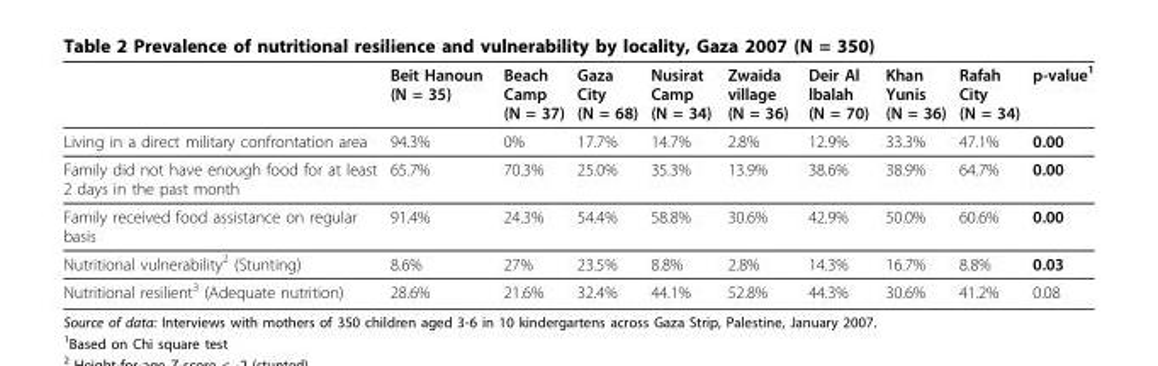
<table><thead><tr><td></td><td>Beit Hanoun (N = 35)</td><td>Beach Camp (N = 37)</td><td>Gaza City (N = 68)</td><td>Nusirat Camp (N = 34)</td><td>Zwaida village (N = 36)</td><td>Deir Al lbalah (N = 70)</td><td>Khan Yunis (N = 36)</td><td>Rafah City (N = 34)</td><td>p-value<sup>1</sup></td></tr></thead><tbody><tr><td>Living in a direct military confrontation area</td><td>94.3%</td><td>0%</td><td>17.7%</td><td>14.7%</td><td>2.8%</td><td>12.9%</td><td>33.3%</td><td>47.1%</td><td>0.00</td></tr><tr><td>Family did not have enough food for at least 2 days in the past month</td><td>65.7%</td><td>70.3%</td><td>25.0%</td><td>35.3%</td><td>13.9%</td><td>38.6%</td><td>38.9%</td><td>64.7%</td><td>0.00</td></tr><tr><td>Family received food assistance on regular basis</td><td>91.4%</td><td>24.3%</td><td>54.4%</td><td>58.8%</td><td>30.6%</td><td>42.9%</td><td>50.0%</td><td>60.6%</td><td>0.00</td></tr><tr><td>Nutritional vulnerability<sup>2</sup> (Stunting)</td><td>8.6%</td><td>27%</td><td>23.5%</td><td>8.8%</td><td>2.8%</td><td>14.3%</td><td>16.7%</td><td>8.8%</td><td>0.03</td></tr><tr><td>Nutritional resilient<sup>3</sup> (Adequate nutrition)</td><td>28.6%</td><td>21.6%</td><td>32.4%</td><td>44.1%</td><td>52.8%</td><td>44.3%</td><td>30.6%</td><td>41.2%</td><td>0.08</td></tr></tbody></table>